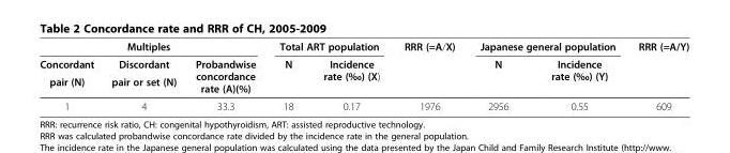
<table><thead><tr><td colspan="3">Multiples</td><td colspan="2">Total ART population</td><td rowspan="3">RRR (=A/X)</td><td colspan="2">Japanese general population</td><td rowspan="3">RRR (=A/Y)</td></tr><tr><td rowspan="2">Concordant pair (N)</td><td rowspan="2">Discordant pair or set (N)</td><td rowspan="2">Probandwise concordance rate (A)(%)</td><td rowspan="2">N</td><td rowspan="2">Incidence rate (‰) (X)</td><td rowspan="2">N</td><td rowspan="2">Incidence rate (‰) (Y)</td></tr><tr></tr></thead><tbody><tr><td>1</td><td>4</td><td>33.3</td><td>18</td><td>0.17</td><td>1976</td><td>2956</td><td>0.55</td><td>609</td></tr></tbody></table>